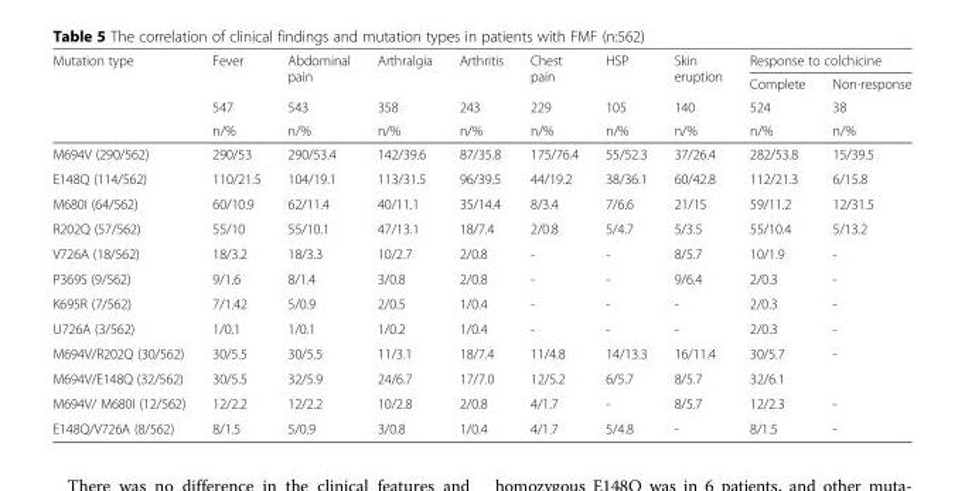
<table><thead><tr><td rowspan="4">Mutation type</td><td rowspan="4">Fever 547 n/%</td><td rowspan="4">Abdominal pain 543 n/%</td><td rowspan="4">Arthralgia 358 n/%</td><td rowspan="4">Arthritis 243 n/%</td><td rowspan="4">Chest pain 229 n/%</td><td rowspan="4">HSP 105 n/%</td><td rowspan="4">Skin eruption 140 n/%</td><td colspan="2">Response to colchicine</td></tr><tr><td rowspan="3">Complete 524 n/%</td><td rowspan="3">Non-response 38 n/%</td></tr><tr></tr><tr></tr></thead><tbody><tr><td>M694V (290/562)</td><td>290/53</td><td>290/53.4</td><td>142/39.6</td><td>87/35.8</td><td>175/76.4</td><td>55/52.3</td><td>37/26.4</td><td>282/53.8</td><td>15/39.5</td></tr><tr><td>E148Q (114/562)</td><td>110/21.5</td><td>104/19.1</td><td>113/31.5</td><td>96/39.5</td><td>44/19.2</td><td>38/36.1</td><td>60/42.8</td><td>112/21.3</td><td>6/15.8</td></tr><tr><td>M680I (64/562)</td><td>60/10.9</td><td>62/11.4</td><td>40/11.1</td><td>35/14.4</td><td>8/3.4</td><td>7/6.6</td><td>21/15</td><td>59/11.2</td><td>12/31.5</td></tr><tr><td>R202Q (57/562)</td><td>55/10</td><td>55/10.1</td><td>47/13.1</td><td>18/7.4</td><td>2/0.8</td><td>5/4.7</td><td>5/3.5</td><td>55/10.4</td><td>5/13.2</td></tr><tr><td>V726A (18/562)</td><td>18/3.2</td><td>18/3.3</td><td>10/2.7</td><td>2/0.8</td><td>-</td><td>-</td><td>8/5.7</td><td>10/1.9</td><td>-</td></tr><tr><td>P369S (9/562)</td><td>9/1.6</td><td>8/1.4</td><td>3/0.8</td><td>2/0.8</td><td>-</td><td>-</td><td>9/6.4</td><td>2/0.3</td><td>-</td></tr><tr><td>K695R (7/562)</td><td>7/1.42</td><td>5/0.9</td><td>2/0.5</td><td>1/0.4</td><td>-</td><td>-</td><td>-</td><td>2/0.3</td><td>-</td></tr><tr><td>U726A (3/562)</td><td>1/0.1</td><td>1/0.1</td><td>1/0.2</td><td>1/0.4</td><td>-</td><td>-</td><td>-</td><td>2/0.3</td><td>-</td></tr><tr><td>M694V/R202Q (30/562)</td><td>30/5.5</td><td>30/5.5</td><td>11/3.1</td><td>18/7.4</td><td>11/4.8</td><td>14/13.3</td><td>16/11.4</td><td>30/5.7</td><td>-</td></tr><tr><td>M694V/E148Q (32/562)</td><td>30/5.5</td><td>32/5.9</td><td>24/6.7</td><td>17/7.0</td><td>12/5.2</td><td>6/5.7</td><td>8/5.7</td><td>32/6.1</td><td></td></tr><tr><td>M694V/ M680I (12/562)</td><td>12/2.2</td><td>12/2.2</td><td>10/2.8</td><td>2/0.8</td><td>4/1.7</td><td>-</td><td>8/5.7</td><td>12/2.3</td><td>-</td></tr><tr><td>E148Q/V726A (8/562)</td><td>8/1.5</td><td>5/0.9</td><td>3/0.8</td><td>1/0.4</td><td>4/1.7</td><td>5/4.8</td><td>-</td><td>8/1.5</td><td>-</td></tr></tbody></table>